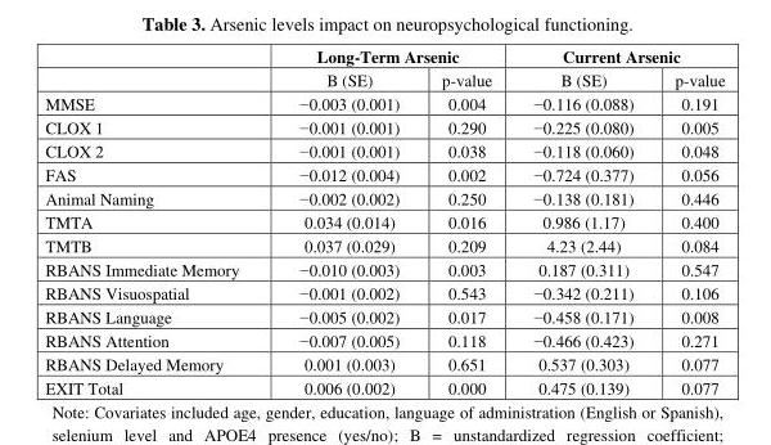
<table><thead><tr><td rowspan="2"></td><td colspan="2">Long-Term Arsenic</td><td colspan="2">Current Arsenic</td></tr><tr><td>B (SE)</td><td>p-value</td><td>B (SE)</td><td>p-value</td></tr></thead><tbody><tr><td>MMSE</td><td>−0.003 (0.001)</td><td>0.004</td><td>−0.116 (0.088)</td><td>0.191</td></tr><tr><td>CLOX 1</td><td>−0.001 (0.001)</td><td>0.290</td><td>−0.225 (0.080)</td><td>0.005</td></tr><tr><td>CLOX 2</td><td>−0.001 (0.001)</td><td>0.038</td><td>−0.118 (0.060)</td><td>0.048</td></tr><tr><td>FAS</td><td>−0.012 (0.004)</td><td>0.002</td><td>−0.724 (0.377)</td><td>0.056</td></tr><tr><td>Animal Naming</td><td>−0.002 (0.002)</td><td>0.250</td><td>−0.138 (0.181)</td><td>0.446</td></tr><tr><td>TMTA</td><td>0.034 (0.014)</td><td>0.016</td><td>0.986 (1.17)</td><td>0.400</td></tr><tr><td>TMTB</td><td>0.037 (0.029)</td><td>0.209</td><td>4.23 (2.44)</td><td>0.084</td></tr><tr><td>RBANS Immediate Memory</td><td>−0.010 (0.003)</td><td>0.003</td><td>0.187 (0.311)</td><td>0.547</td></tr><tr><td>RBANS Visuospatial</td><td>−0.001 (0.002)</td><td>0.543</td><td>−0.342 (0.211)</td><td>0.106</td></tr><tr><td>RBANS Language</td><td>−0.005 (0.002)</td><td>0.017</td><td>−0.458 (0.171)</td><td>0.008</td></tr><tr><td>RBANS Attention</td><td>−0.007 (0.005)</td><td>0.118</td><td>−0.466 (0.423)</td><td>0.271</td></tr><tr><td>RBANS Delayed Memory</td><td>0.001 (0.003)</td><td>0.651</td><td>0.537 (0.303)</td><td>0.077</td></tr><tr><td>EXIT Total</td><td>0.006 (0.002)</td><td>0.000</td><td>0.475 (0.139)</td><td>0.077</td></tr></tbody></table>